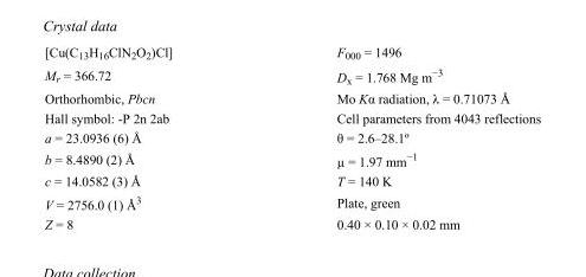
<table><tbody><tr><td>[Cu(C<sub>13</sub>H<sub>16</sub>ClN<sub>2</sub>O<sub>2</sub>)Cl]</td><td>F000 = 1496</td></tr><tr><td>M<sub>r</sub> = 366.72</td><td>D<sub>x</sub> = 1.768 Mg m<sup>−3</sup></td></tr><tr><td>Orthorhombic, Pbcn</td><td>Mo Kα radiation, λ = 0.71073 Å</td></tr><tr><td>Hall symbol: -P 2n 2ab</td><td>Cell parameters from 4043 reflections</td></tr><tr><td>a = 23.0936 (6) Å</td><td>θ = 2.6–28.1º</td></tr><tr><td>b = 8.4890 (2) Å</td><td>µ = 1.97 mm<sup>−1</sup></td></tr><tr><td>c = 14.0582 (3) Å</td><td>T = 140 K</td></tr><tr><td>V = 2756.0 (1) Å<sup>3</sup></td><td>Plate, green</td></tr><tr><td>Z = 8</td><td>0.40 × 0.10 × 0.02 mm</td></tr></tbody></table>